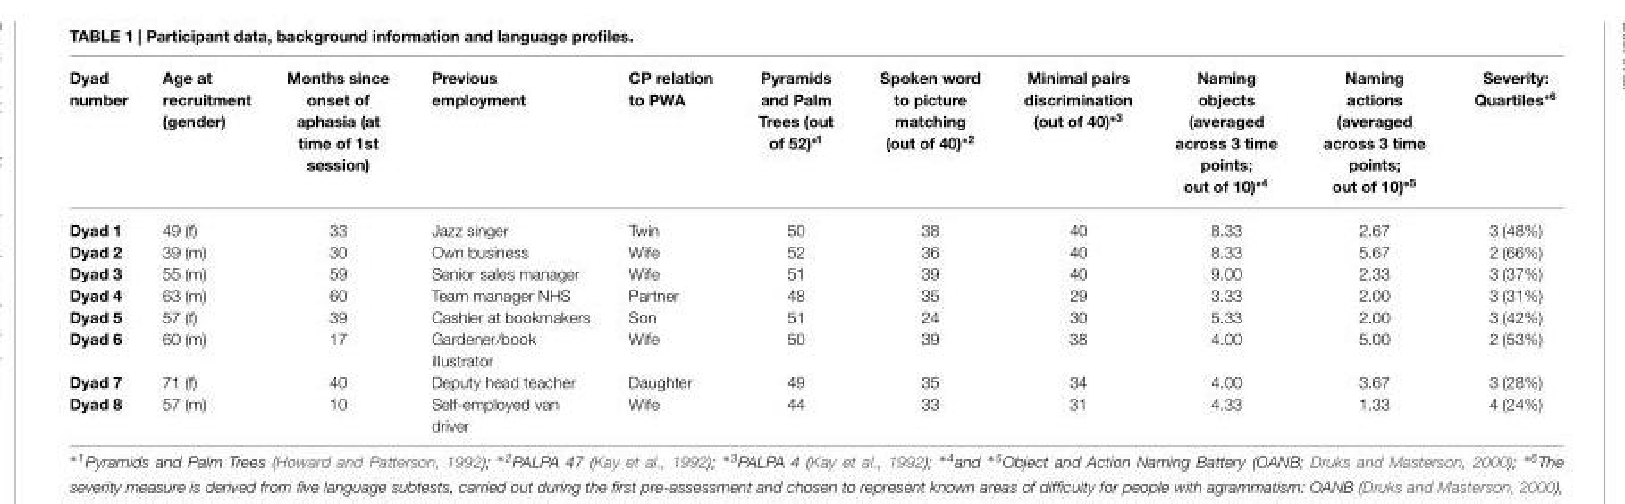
<table><thead><tr><td>Dyad number</td><td>Age at recruitment (gender)</td><td>Months since onset of aphasia (at time of 1st session)</td><td>Previous employment</td><td>CP relation to PWA</td><td>Pyramids and Palm Trees (out of 52)∗1</td><td>Spoken word to picture matching (out of 40)∗2</td><td>Minimal pairs discrimination (out of 40)∗3</td><td>Naming objects (averaged across 3 time points; out of 10)∗4</td><td>Naming actions (averaged across 3 time points; out of 10)∗5</td><td>Severity: Quartiles∗6</td></tr></thead><tbody><tr><td>Dyad 1</td><td>49 (f)</td><td>33</td><td>Jazz singer</td><td>Twin</td><td>50</td><td>38</td><td>40</td><td>8.33</td><td>2.67</td><td>3 (48%)</td></tr><tr><td>Dyad 2</td><td>39 (m)</td><td>30</td><td>Own business</td><td>Wife</td><td>52</td><td>36</td><td>40</td><td>8.33</td><td>5.67</td><td>2 (66%)</td></tr><tr><td>Dyad 3</td><td>55 (m)</td><td>59</td><td>Senior sales manager</td><td>Wife</td><td>51</td><td>39</td><td>40</td><td>9.00</td><td>2.33</td><td>3 (37%)</td></tr><tr><td>Dyad 4</td><td>63 (m)</td><td>60</td><td>Team manager NHS</td><td>Partner</td><td>48</td><td>35</td><td>29</td><td>3.33</td><td>2.00</td><td>3 (31%)</td></tr><tr><td>Dyad 5</td><td>57 (f)</td><td>39</td><td>Cashier at bookmakers</td><td>Son</td><td>51</td><td>24</td><td>30</td><td>5.33</td><td>2.00</td><td>3 (42%)</td></tr><tr><td>Dyad 6</td><td>60 (m)</td><td>17</td><td>Gardener/book illustrator</td><td>Wife</td><td>50</td><td>39</td><td>38</td><td>4.00</td><td>5.00</td><td>2 (53%)</td></tr><tr><td>Dyad 7</td><td>71 (f)</td><td>40</td><td>Deputy head teacher</td><td>Daughter</td><td>49</td><td>35</td><td>34</td><td>4.00</td><td>3.67</td><td>3 (28%)</td></tr><tr><td>Dyad 8</td><td>57 (m)</td><td>10</td><td>Self-employed van driver</td><td>Wife</td><td>44</td><td>33</td><td>31</td><td>4.33</td><td>1.33</td><td>4 (24%)</td></tr></tbody></table>